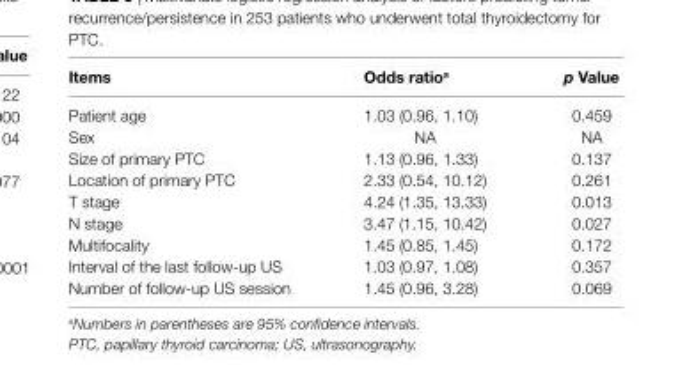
<table><thead><tr><td>items</td><td>Odds ratio<sup>a</sup></td><td>p Value</td></tr></thead><tbody><tr><td>Patient age</td><td>1.03 (0.96, 1.10)</td><td>0.459</td></tr><tr><td>Sex</td><td>NA</td><td>NA</td></tr><tr><td>Size of primary PTC</td><td>1.13 (0.96, 1.33)</td><td>0.137</td></tr><tr><td>Location of primary PTC</td><td>2.33 (0.54, 10.12)</td><td>0.261</td></tr><tr><td>T stage</td><td>4.24 (1.35, 13.33)</td><td>0.013</td></tr><tr><td>N stage</td><td>3.47 (1.15, 10.42)</td><td>0.027</td></tr><tr><td>Multifocality</td><td>1.45 (0.85, 1.45)</td><td>0.172</td></tr><tr><td>Interval of the last follow-up US</td><td>1.03 (0.97, 1.08)</td><td>0.357</td></tr><tr><td>Number of follow-up US session</td><td>1.45 (0.96, 3.28)</td><td>0.069</td></tr></tbody></table>